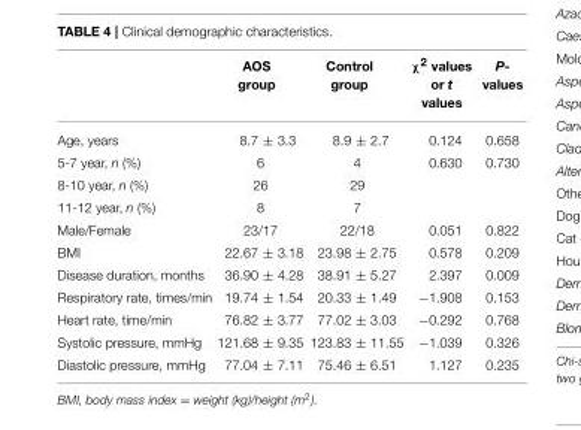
<table><thead><tr><td></td><td>AOS group</td><td>Control group</td><td>χ<sup>2</sup> values or t values</td><td>P- values</td></tr></thead><tbody><tr><td>Age, years</td><td>8.7 ± 3.3</td><td>8.9 ± 2.7</td><td>0.124</td><td>0.658</td></tr><tr><td>5-7 year, n (%)</td><td>6</td><td>4</td><td>0.630</td><td>0.730</td></tr><tr><td>8-10 year, n (%)</td><td>26</td><td>29</td><td></td><td></td></tr><tr><td>11-12 year, n (%)</td><td>8</td><td>7</td><td></td><td></td></tr><tr><td>Male/Female</td><td>23/17</td><td>22/18</td><td>0.051</td><td>0.822</td></tr><tr><td>BMI</td><td>22.67 ± 3.18</td><td>23.98 ± 2.75</td><td>0.578</td><td>0.209</td></tr><tr><td>Disease duration, months</td><td>36.90 ± 4.28</td><td>38.91 ± 5.27</td><td>2.397</td><td>0.009</td></tr><tr><td>Respiratory rate, times/min</td><td>19.74 ± 1.54</td><td>20.33 ± 1.49</td><td>−1.908</td><td>0.153</td></tr><tr><td>Heart rate, time/min</td><td>76.82 ± 3.77</td><td>77.02 ± 3.03</td><td>−0.292</td><td>0.768</td></tr><tr><td>Systolic pressure, mmHg</td><td>121.68 ± 9.35</td><td>123.83 ± 11.55</td><td>−1.039</td><td>0.326</td></tr><tr><td>Diastolic pressure, mmHg</td><td>77.04 ± 7.11</td><td>75.46 ± 6.51</td><td>1.127</td><td>0.235</td></tr></tbody></table>